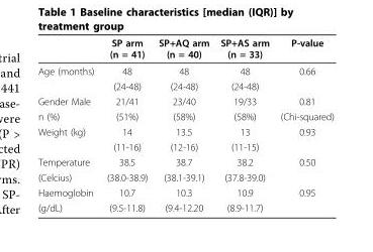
<table><thead><tr><td></td><td>SP arm (n = 41)</td><td>SP+AQ arm (n = 40)</td><td>SP+AS arm (n = 33)</td><td>P-value</td></tr></thead><tbody><tr><td rowspan="2">Age (months)</td><td>48</td><td>48</td><td>48</td><td>0.66</td></tr><tr><td>(24-48)</td><td>(24-48)</td><td>(24-48)</td><td></td></tr><tr><td>Gender Male</td><td>21/41</td><td>23/40</td><td>19/33</td><td>0.81</td></tr><tr><td>n (%)</td><td>(51%)</td><td>(58%)</td><td>(58%)</td><td>(Chi-squared)</td></tr><tr><td rowspan="2">Weight (kg)</td><td>14</td><td>13.5</td><td>13</td><td>0.93</td></tr><tr><td>(11-16)</td><td>(12-16)</td><td>(11-15)</td><td></td></tr><tr><td>Temperature</td><td>38.5</td><td>38.7</td><td>38.2</td><td>0.50</td></tr><tr><td>(Celcius)</td><td>(38.0-38.9)</td><td>(38.1-39.1)</td><td>(37.8-39.0)</td><td></td></tr><tr><td>Haemoglobin</td><td>10.7</td><td>10.3</td><td>10.9</td><td>0.95</td></tr><tr><td>(g/dL)</td><td>(9.5-11.8)</td><td>(9.4-12.20</td><td>(8.9-11.7)</td><td></td></tr></tbody></table>